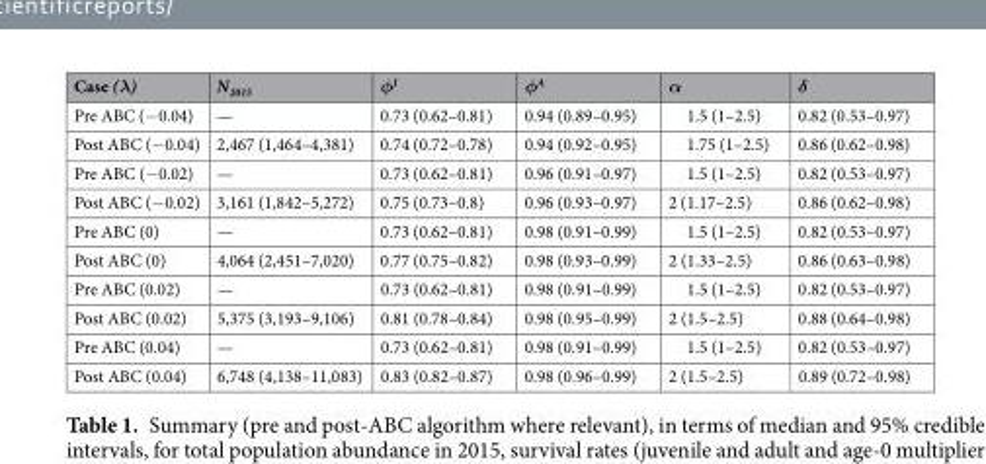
<table><thead><tr><td>Case (λ)</td><td>N<sub>2015</sub></td><td>φ<sup>J</sup></td><td>φ<sup>A</sup></td><td>α</td><td>δ</td></tr></thead><tbody><tr><td>Pre ABC (−0.04)</td><td>—</td><td>0.73 (0.62–0.81)</td><td>0.94 (0.89–0.95)</td><td>1.5 (1–2.5)</td><td>0.82 (0.53–0.97)</td></tr><tr><td>Post ABC (−0.04)</td><td>2,467 (1,464–4,381)</td><td>0.74 (0.72–0.78)</td><td>0.94 (0.92–0.95)</td><td>1.75 (1–2.5)</td><td>0.86 (0.62–0.98)</td></tr><tr><td>Pre ABC (−0.02)</td><td>—</td><td>0.73 (0.62–0.81)</td><td>0.96 (0.91–0.97)</td><td>1.5 (1–2.5)</td><td>0.82 (0.53–0.97)</td></tr><tr><td>Post ABC (−0.02)</td><td>3,161 (1,842–5,272)</td><td>0.75 (0.73–0.8)</td><td>0.96 (0.93–0.97)</td><td>2 (1.17–2.5)</td><td>0.86 (0.62–0.98)</td></tr><tr><td>Pre ABC (0)</td><td>—</td><td>0.73 (0.62–0.81)</td><td>0.98 (0.91–0.99)</td><td>1.5 (1–2.5)</td><td>0.82 (0.53–0.97)</td></tr><tr><td>Post ABC (0)</td><td>4,064 (2,451–7,020)</td><td>0.77 (0.75–0.82)</td><td>0.98 (0.93–0.99)</td><td>2 (1.33–2.5)</td><td>0.86 (0.63–0.98)</td></tr><tr><td>Pre ABC (0.02)</td><td>—</td><td>0.73 (0.62–0.81)</td><td>0.98 (0.91–0.99)</td><td>1.5 (1–2.5)</td><td>0.82 (0.53–0.97)</td></tr><tr><td>Post ABC (0.02)</td><td>5,375 (3,193–9,106)</td><td>0.81 (0.78–0.84)</td><td>0.98 (0.95–0.99)</td><td>2 (1.5–2.5)</td><td>0.88 (0.64–0.98)</td></tr><tr><td>Pre ABC (0.04)</td><td>—</td><td>0.73 (0.62–0.81)</td><td>0.98 (0.91–0.99)</td><td>1.5 (1–2.5)</td><td>0.82 (0.53–0.97)</td></tr><tr><td>Post ABC (0.04)</td><td>6,748 (4,138–11,083)</td><td>0.83 (0.82–0.87)</td><td>0.98 (0.96–0.99)</td><td>2 (1.5–2.5)</td><td>0.89 (0.72–0.98)</td></tr></tbody></table>